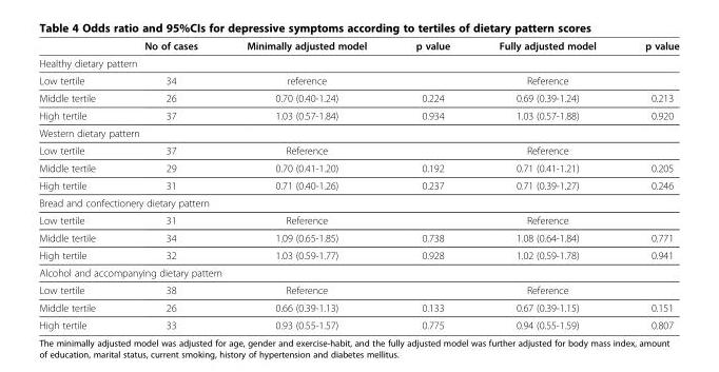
<table><thead><tr><td></td><td>No of cases</td><td>Minimally adjusted model</td><td>p value</td><td>Fully adjusted model</td><td>p value</td></tr></thead><tbody><tr><td colspan="6">Healthy dietary pattern</td></tr><tr><td>Low tertile</td><td>34</td><td>reference</td><td></td><td>Reference</td><td></td></tr><tr><td>Middle tertile</td><td>26</td><td>0.70 (0.40-1.24)</td><td>0.224</td><td>0.69 (0.39-1.24)</td><td>0.213</td></tr><tr><td>High tertile</td><td>37</td><td>1.03 (0.57-1.84)</td><td>0.934</td><td>1.03 (0.57-1.88)</td><td>0.920</td></tr><tr><td colspan="6">Western dietary pattern</td></tr><tr><td>Low tertile</td><td>37</td><td>Reference</td><td></td><td>Reference</td><td></td></tr><tr><td>Middle tertile</td><td>29</td><td>0.70 (0.41-1.20)</td><td>0.192</td><td>0.71 (0.41-1.21)</td><td>0.205</td></tr><tr><td>High tertile</td><td>31</td><td>0.71 (0.40-1.26)</td><td>0.237</td><td>0.71 (0.39-1.27)</td><td>0.246</td></tr><tr><td colspan="6">Bread and confectionery dietary pattern</td></tr><tr><td>Low tertile</td><td>31</td><td>Reference</td><td></td><td>Reference</td><td></td></tr><tr><td>Middle tertile</td><td>34</td><td>1.09 (0.65-1.85)</td><td>0.738</td><td>1.08 (0.64-1.84)</td><td>0.771</td></tr><tr><td>High tertile</td><td>32</td><td>1.03 (0.59-1.77)</td><td>0.928</td><td>1.02 (0.59-1.78)</td><td>0.941</td></tr><tr><td colspan="6">Alcohol and accompanying dietary pattern</td></tr><tr><td>Low tertile</td><td>38</td><td>Reference</td><td></td><td>Reference</td><td></td></tr><tr><td>Middle tertile</td><td>26</td><td>0.66 (0.39-1.13)</td><td>0.133</td><td>0.67 (0.39-1.15)</td><td>0.151</td></tr><tr><td>High tertile</td><td>33</td><td>0.93 (0.55-1.57)</td><td>0.775</td><td>0.94 (0.55-1.59)</td><td>0.807</td></tr></tbody></table>